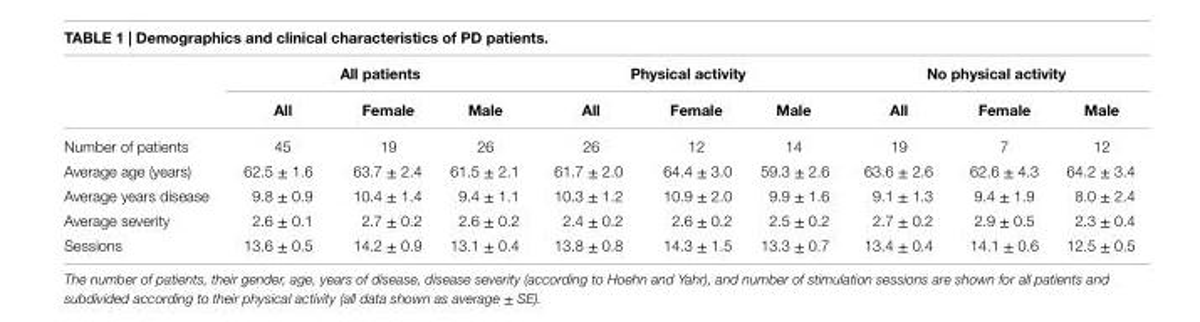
<table><thead><tr><td rowspan="2"></td><td colspan="3">all patients</td><td colspan="3">Physical activity</td><td colspan="3">no physical activity</td></tr><tr><td>all</td><td>Female</td><td>Male</td><td>all</td><td>Female</td><td>Male</td><td>all</td><td>Female</td><td>Male</td></tr></thead><tbody><tr><td>Number of patients</td><td>45</td><td>19</td><td>26</td><td>26</td><td>12</td><td>14</td><td>19</td><td>7</td><td>12</td></tr><tr><td>Average age (years)</td><td>62.5 ± 1.6</td><td>63.7 ± 2.4</td><td>61.5 ± 2.1</td><td>61.7 ± 2.0</td><td>64.4 ± 3.0</td><td>59.3 ± 2.6</td><td>63.6 ± 2.6</td><td>62.6 ± 4.3</td><td>64.2 ± 3.4</td></tr><tr><td>Average years disease</td><td>9.8 ± 0.9</td><td>10.4 ± 1.4</td><td>9.4 ± 1.1</td><td>10.3 ± 1.2</td><td>10.9 ± 2.0</td><td>9.9 ± 1.6</td><td>9.1 ± 1.3</td><td>9.4 ± 1.9</td><td>8.0 ± 2.4</td></tr><tr><td>Average severity</td><td>2.6 ± 0.1</td><td>2.7 ± 0.2</td><td>2.6 ± 0.2</td><td>2.4 ± 0.2</td><td>2.6 ± 0.2</td><td>2.5 ± 0.2</td><td>2.7 ± 0.2</td><td>2.9 ± 0.5</td><td>2.3 ± 0.4</td></tr><tr><td>Sessions</td><td>13.6 ± 0.5</td><td>14.2 ± 0.9</td><td>13.1 ± 0.4</td><td>13.8 ± 0.8</td><td>14.3 ± 1.5</td><td>13.3 ± 0.7</td><td>13.4 ± 0.4</td><td>14.1 ± 0.6</td><td>12.5 ± 0.5</td></tr></tbody></table>